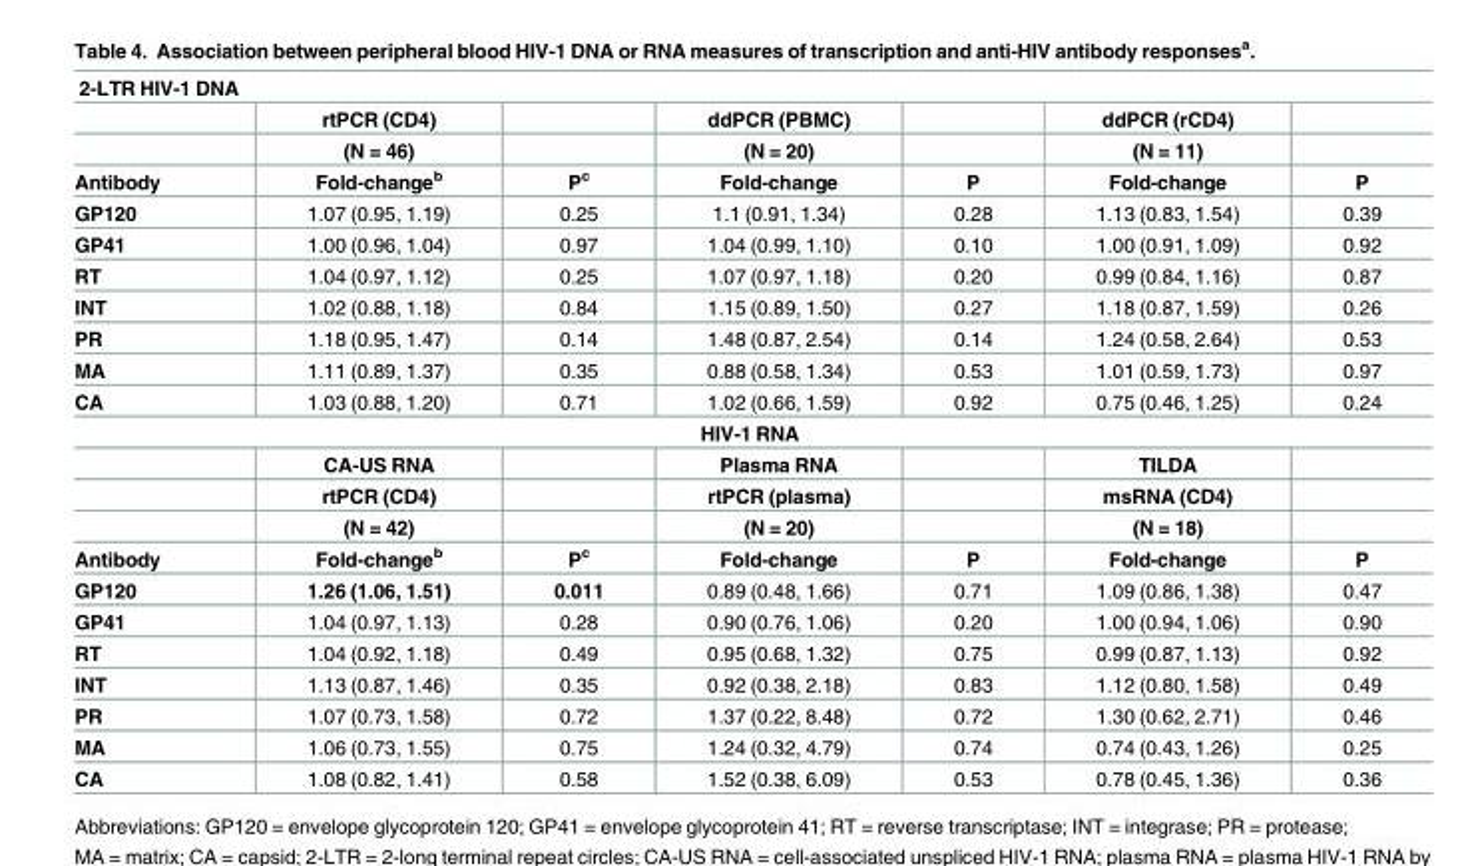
<table><tbody><tr><td colspan="7">2-LTR HIV-1 DNA</td></tr><tr><td></td><td>rtPCR (CD4)</td><td></td><td>ddPCR (PBMC)</td><td></td><td>ddPCR (rCD4)</td><td></td></tr><tr><td></td><td>(N = 46)</td><td></td><td>(N = 20)</td><td></td><td>(N = 11)</td><td></td></tr><tr><td>Antibody</td><td>Fold-change<sup>b</sup></td><td>P<sup>c</sup></td><td>Fold-change</td><td>P</td><td>Fold-change</td><td>P</td></tr><tr><td>GP120</td><td>1.07 (0.95, 1.19)</td><td>0.25</td><td>1.1 (0.91, 1.34)</td><td>0.28</td><td>1.13 (0.83, 1.54)</td><td>0.39</td></tr><tr><td>GP41</td><td>1.00 (0.96, 1.04)</td><td>0.97</td><td>1.04 (0.99, 1.10)</td><td>0.10</td><td>1.00 (0.91, 1.09)</td><td>0.92</td></tr><tr><td>RT</td><td>1.04 (0.97, 1.12)</td><td>0.25</td><td>1.07 (0.97, 1.18)</td><td>0.20</td><td>0.99 (0.84, 1.16)</td><td>0.87</td></tr><tr><td>INT</td><td>1.02 (0.88, 1.18)</td><td>0.84</td><td>1.15 (0.89, 1.50)</td><td>0.27</td><td>1.18 (0.87, 1.59)</td><td>0.26</td></tr><tr><td>PR</td><td>1.18 (0.95, 1.47)</td><td>0.14</td><td>1.48 (0.87, 2.54)</td><td>0.14</td><td>1.24 (0.58, 2.64)</td><td>0.53</td></tr><tr><td>MA</td><td>1.11 (0.89, 1.37)</td><td>0.35</td><td>0.88 (0.58, 1.34)</td><td>0.53</td><td>1.01 (0.59, 1.73)</td><td>0.97</td></tr><tr><td>CA</td><td>1.03 (0.88, 1.20)</td><td>0.71</td><td>1.02 (0.66, 1.59)</td><td>0.92</td><td>0.75 (0.46, 1.25)</td><td>0.24</td></tr><tr><td colspan="7">HIV-1 RNA</td></tr><tr><td></td><td>CA-US RNA</td><td></td><td>Plasma RNA</td><td></td><td>TILDA</td><td></td></tr><tr><td></td><td>rtPCR (CD4)</td><td></td><td>rtPCR (plasma)</td><td></td><td>msRNA (CD4)</td><td></td></tr><tr><td></td><td>(N = 42)</td><td></td><td>(N = 20)</td><td></td><td>(N = 18)</td><td></td></tr><tr><td>Antibody</td><td>Fold-change<sup>b</sup></td><td>P<sup>c</sup></td><td>Fold-change</td><td>P</td><td>Fold-change</td><td>P</td></tr><tr><td>GP120</td><td>1.26 (1.06, 1.51)</td><td>0.011</td><td>0.89 (0.48, 1.66)</td><td>0.71</td><td>1.09 (0.86, 1.38)</td><td>0.47</td></tr><tr><td>GP41</td><td>1.04 (0.97, 1.13)</td><td>0.28</td><td>0.90 (0.76, 1.06)</td><td>0.20</td><td>1.00 (0.94, 1.06)</td><td>0.90</td></tr><tr><td>RT</td><td>1.04 (0.92, 1.18)</td><td>0.49</td><td>0.95 (0.68, 1.32)</td><td>0.75</td><td>0.99 (0.87, 1.13)</td><td>0.92</td></tr><tr><td>INT</td><td>1.13 (0.87, 1.46)</td><td>0.35</td><td>0.92 (0.38, 2.18)</td><td>0.83</td><td>1.12 (0.80, 1.58)</td><td>0.49</td></tr><tr><td>PR</td><td>1.07 (0.73, 1.58)</td><td>0.72</td><td>1.37 (0.22, 8.48)</td><td>0.72</td><td>1.30 (0.62, 2.71)</td><td>0.46</td></tr><tr><td>MA</td><td>1.06 (0.73, 1.55)</td><td>0.75</td><td>1.24 (0.32, 4.79)</td><td>0.74</td><td>0.74 (0.43, 1.26)</td><td>0.25</td></tr><tr><td>CA</td><td>1.08 (0.82, 1.41)</td><td>0.58</td><td>1.52 (0.38, 6.09)</td><td>0.53</td><td>0.78 (0.45, 1.36)</td><td>0.36</td></tr></tbody></table>